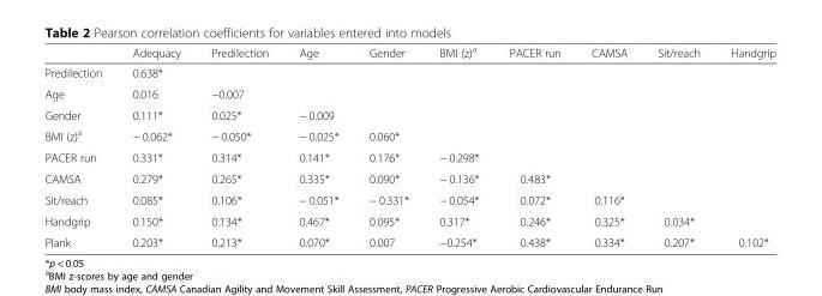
<table><thead><tr><td></td><td>Adequacy</td><td>Predilection</td><td>Age</td><td>Gender</td><td>BMI (z)<sup>a</sup></td><td>PACER run</td><td>CAMSA</td><td>Sit/reach</td><td>Handgrip</td></tr></thead><tbody><tr><td>Predilection</td><td>0.638*</td><td></td><td></td><td></td><td></td><td></td><td></td><td></td><td></td></tr><tr><td>Age</td><td>0.016</td><td>−0.007</td><td></td><td></td><td></td><td></td><td></td><td></td><td></td></tr><tr><td>Gender</td><td>0.111*</td><td>0.025*</td><td>− 0.009</td><td></td><td></td><td></td><td></td><td></td><td></td></tr><tr><td>BMI (z)<sup>a</sup></td><td>− 0.062*</td><td>− 0.050*</td><td>− 0.025*</td><td>0.060*</td><td></td><td></td><td></td><td></td><td></td></tr><tr><td>PACER run</td><td>0.331*</td><td>0.314*</td><td>0.141*</td><td>0.176*</td><td>− 0.298*</td><td></td><td></td><td></td><td></td></tr><tr><td>CAMSA</td><td>0.279*</td><td>0.265*</td><td>0.335*</td><td>0.090*</td><td>− 0.136*</td><td>0.483*</td><td></td><td></td><td></td></tr><tr><td>Sit/reach</td><td>0.085*</td><td>0.106*</td><td>− 0.051*</td><td>− 0.331*</td><td>− 0.054*</td><td>0.072*</td><td>0.116*</td><td></td><td></td></tr><tr><td>Handgrip</td><td>0.150*</td><td>0.134*</td><td>0.467*</td><td>0.095*</td><td>0.317*</td><td>0.246*</td><td>0.325*</td><td>0.034*</td><td></td></tr><tr><td>Plank</td><td>0.203*</td><td>0.213*</td><td>0.070*</td><td>0.007</td><td>−0.254*</td><td>0.438*</td><td>0.334*</td><td>0.207*</td><td>0.102*</td></tr></tbody></table>